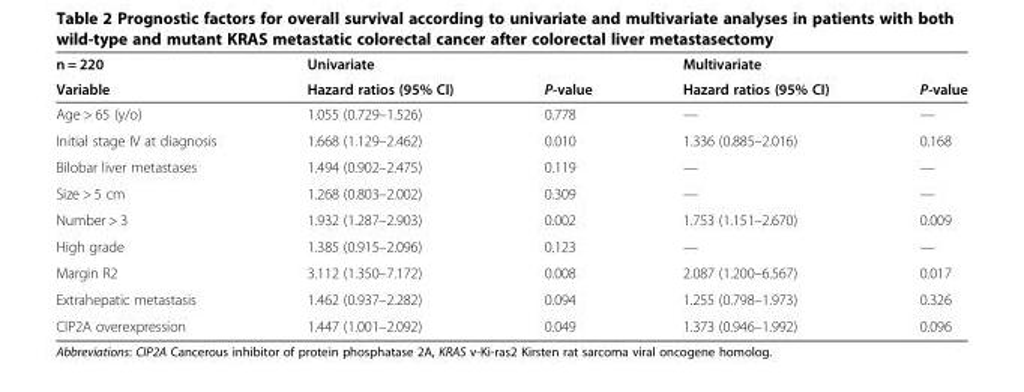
<table><thead><tr><td rowspan="2">n = 220 Variable</td><td rowspan="2">Univariate Hazard ratios (95% CI)</td><td rowspan="2">P-value</td><td rowspan="2">Multivariate Hazard ratios (95% CI)</td><td rowspan="2">P-value</td></tr><tr></tr></thead><tbody><tr><td>Age &gt; 65 (y/o)</td><td>1.055 (0.729–1.526)</td><td>0.778</td><td>—</td><td>—</td></tr><tr><td>Initial stage IV at diagnosis</td><td>1.668 (1.129–2.462)</td><td>0.010</td><td>1.336 (0.885–2.016)</td><td>0.168</td></tr><tr><td>Bilobar liver metastases</td><td>1.494 (0.902–2.475)</td><td>0.119</td><td>—</td><td>—</td></tr><tr><td>Size &gt; 5 cm</td><td>1.268 (0.803–2.002)</td><td>0.309</td><td>—</td><td>—</td></tr><tr><td>Number &gt; 3</td><td>1.932 (1.287–2.903)</td><td>0.002</td><td>1.753 (1.151–2.670)</td><td>0.009</td></tr><tr><td>High grade</td><td>1.385 (0.915–2.096)</td><td>0.123</td><td>—</td><td>—</td></tr><tr><td>Margin R2</td><td>3.112 (1.350–7.172)</td><td>0.008</td><td>2.087 (1.200–6.567)</td><td>0.017</td></tr><tr><td>Extrahepatic metastasis</td><td>1.462 (0.937–2.282)</td><td>0.094</td><td>1.255 (0.798–1.973)</td><td>0.326</td></tr><tr><td>CIP2A overexpression</td><td>1.447 (1.001–2.092)</td><td>0.049</td><td>1.373 (0.946–1.992)</td><td>0.096</td></tr></tbody></table>